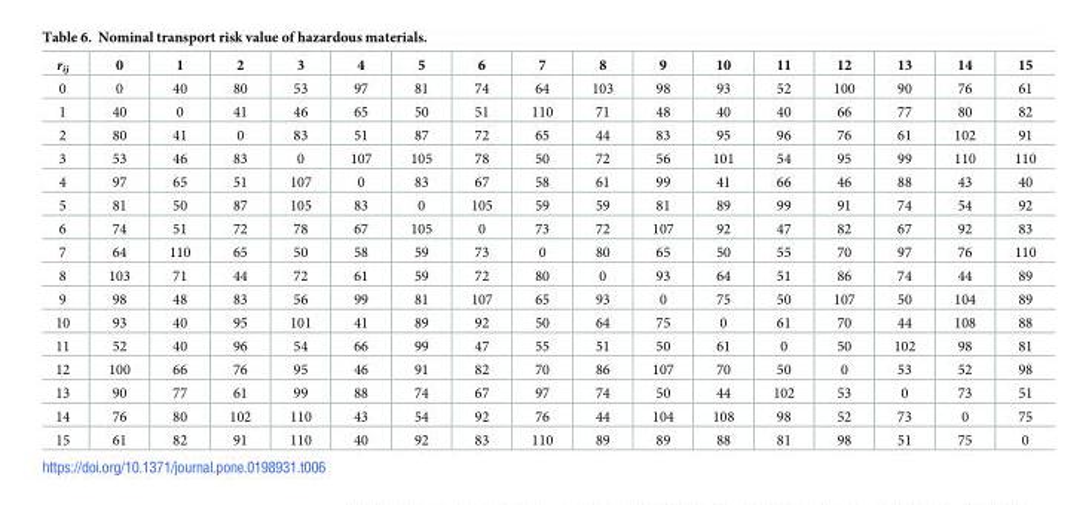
<table><thead><tr><td>r<sub>ij</sub></td><td>0</td><td>1</td><td>2</td><td>3</td><td>4</td><td>5</td><td>6</td><td>7</td><td>8</td><td>9</td><td>10</td><td>11</td><td>12</td><td>13</td><td>14</td><td>15</td></tr></thead><tbody><tr><td>0</td><td>0</td><td>40</td><td>80</td><td>53</td><td>97</td><td>81</td><td>74</td><td>64</td><td>103</td><td>98</td><td>93</td><td>52</td><td>100</td><td>90</td><td>76</td><td>61</td></tr><tr><td>1</td><td>40</td><td>0</td><td>41</td><td>46</td><td>65</td><td>50</td><td>51</td><td>110</td><td>71</td><td>48</td><td>40</td><td>40</td><td>66</td><td>77</td><td>80</td><td>82</td></tr><tr><td>2</td><td>80</td><td>41</td><td>0</td><td>83</td><td>51</td><td>87</td><td>72</td><td>65</td><td>44</td><td>83</td><td>95</td><td>96</td><td>76</td><td>61</td><td>102</td><td>91</td></tr><tr><td>3</td><td>53</td><td>46</td><td>83</td><td>0</td><td>107</td><td>105</td><td>78</td><td>50</td><td>72</td><td>56</td><td>101</td><td>54</td><td>95</td><td>99</td><td>110</td><td>110</td></tr><tr><td>4</td><td>97</td><td>65</td><td>51</td><td>107</td><td>0</td><td>83</td><td>67</td><td>58</td><td>61</td><td>99</td><td>41</td><td>66</td><td>46</td><td>88</td><td>43</td><td>40</td></tr><tr><td>5</td><td>81</td><td>50</td><td>87</td><td>105</td><td>83</td><td>0</td><td>105</td><td>59</td><td>59</td><td>81</td><td>89</td><td>99</td><td>91</td><td>74</td><td>54</td><td>92</td></tr><tr><td>6</td><td>74</td><td>51</td><td>72</td><td>78</td><td>67</td><td>105</td><td>0</td><td>73</td><td>72</td><td>107</td><td>92</td><td>47</td><td>82</td><td>67</td><td>92</td><td>83</td></tr><tr><td>7</td><td>64</td><td>110</td><td>65</td><td>50</td><td>58</td><td>59</td><td>73</td><td>0</td><td>80</td><td>65</td><td>50</td><td>55</td><td>70</td><td>97</td><td>76</td><td>110</td></tr><tr><td>8</td><td>103</td><td>71</td><td>44</td><td>72</td><td>61</td><td>59</td><td>72</td><td>80</td><td>0</td><td>93</td><td>64</td><td>51</td><td>86</td><td>74</td><td>44</td><td>89</td></tr><tr><td>9</td><td>98</td><td>48</td><td>83</td><td>56</td><td>99</td><td>81</td><td>107</td><td>65</td><td>93</td><td>0</td><td>75</td><td>50</td><td>107</td><td>50</td><td>104</td><td>89</td></tr><tr><td>10</td><td>93</td><td>40</td><td>95</td><td>101</td><td>41</td><td>89</td><td>92</td><td>50</td><td>64</td><td>75</td><td>0</td><td>61</td><td>70</td><td>44</td><td>108</td><td>88</td></tr><tr><td>11</td><td>52</td><td>40</td><td>96</td><td>54</td><td>66</td><td>99</td><td>47</td><td>55</td><td>51</td><td>50</td><td>61</td><td>0</td><td>50</td><td>102</td><td>98</td><td>81</td></tr><tr><td>12</td><td>100</td><td>66</td><td>76</td><td>95</td><td>46</td><td>91</td><td>82</td><td>70</td><td>86</td><td>107</td><td>70</td><td>50</td><td>0</td><td>53</td><td>52</td><td>98</td></tr><tr><td>13</td><td>90</td><td>77</td><td>61</td><td>99</td><td>88</td><td>74</td><td>67</td><td>97</td><td>74</td><td>50</td><td>44</td><td>102</td><td>53</td><td>0</td><td>73</td><td>51</td></tr><tr><td>14</td><td>76</td><td>80</td><td>102</td><td>110</td><td>43</td><td>54</td><td>92</td><td>76</td><td>44</td><td>104</td><td>108</td><td>98</td><td>52</td><td>73</td><td>0</td><td>75</td></tr><tr><td>15</td><td>61</td><td>82</td><td>91</td><td>110</td><td>40</td><td>92</td><td>83</td><td>110</td><td>89</td><td>89</td><td>88</td><td>81</td><td>98</td><td>51</td><td>75</td><td>0</td></tr></tbody></table>